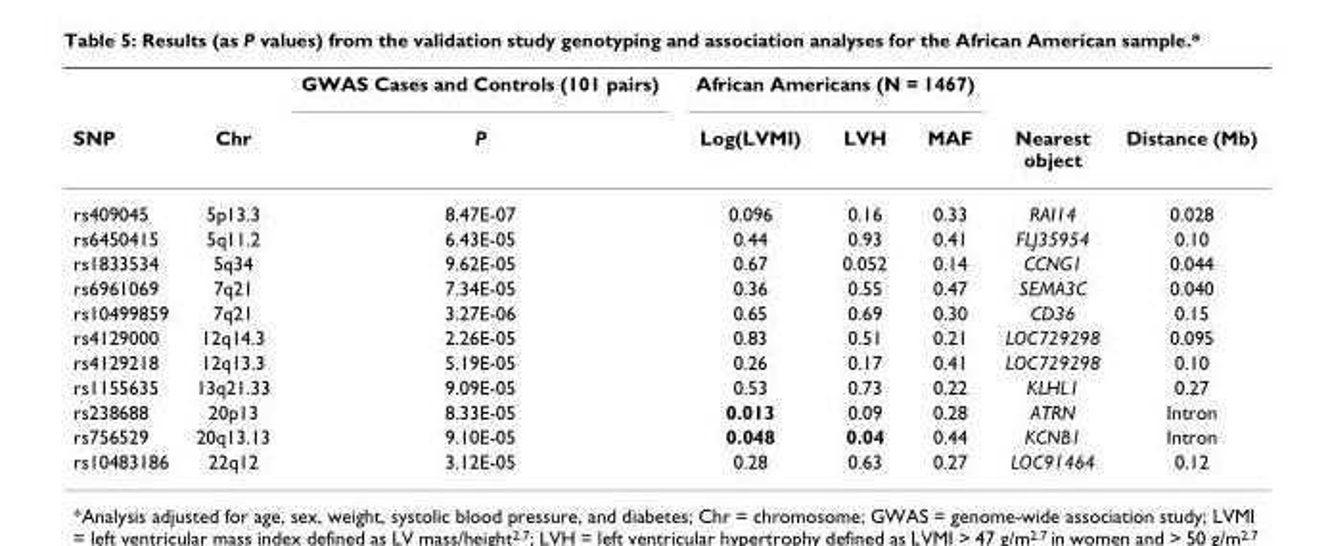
<table><thead><tr><td rowspan="2">SNP</td><td rowspan="2">Chr</td><td rowspan="2">GWAS Cases and Controls (101 pairs) P</td><td colspan="3">African Americans (N = 1467)</td><td rowspan="2">Nearest object</td><td rowspan="2">Distance (Mb)</td></tr><tr><td>Log(LVMI)</td><td>LVH</td><td>MAF</td></tr></thead><tbody><tr><td>rs409045</td><td>5p13.3</td><td>8.47E-07</td><td>0.096</td><td>0.16</td><td>0.33</td><td>RAI14</td><td>0.028</td></tr><tr><td>rs6450415</td><td>5q11.2</td><td>6.43E-05</td><td>0.44</td><td>0.93</td><td>0.41</td><td>FLJ35954</td><td>0.10</td></tr><tr><td>rs1833534</td><td>5q34</td><td>9.62E-05</td><td>0.67</td><td>0.052</td><td>0.14</td><td>CCNG1</td><td>0.044</td></tr><tr><td>rs6961069</td><td>7q21</td><td>7.34E-05</td><td>0.36</td><td>0.55</td><td>0.47</td><td>SEMA3C</td><td>0.040</td></tr><tr><td>rs10499859</td><td>7q21</td><td>3.27E-06</td><td>0.65</td><td>0.69</td><td>0.30</td><td>CD36</td><td>0.15</td></tr><tr><td>rs4129000</td><td>12q14.3</td><td>2.26E-05</td><td>0.83</td><td>0.51</td><td>0.21</td><td>LOC729298</td><td>0.095</td></tr><tr><td>rs4129218</td><td>12q13.3</td><td>5.19E-05</td><td>0.26</td><td>0.17</td><td>0.41</td><td>LOC729298</td><td>0.10</td></tr><tr><td>rs1155635</td><td>13q21.33</td><td>9.09E-05</td><td>0.53</td><td>0.73</td><td>0.22</td><td>KLHL1</td><td>0.27</td></tr><tr><td>rs238688</td><td>20p13</td><td>8.33E-05</td><td>0.013</td><td>0.09</td><td>0.28</td><td>ATRN</td><td>Intron</td></tr><tr><td>rs756529</td><td>20q13.13</td><td>9.10E-05</td><td>0.048</td><td>0.04</td><td>0.44</td><td>KCNB1</td><td>Intron</td></tr><tr><td>rs10483186</td><td>22q12</td><td>3.12E-05</td><td>0.28</td><td>0.63</td><td>0.27</td><td>LOC91464</td><td>0.12</td></tr></tbody></table>